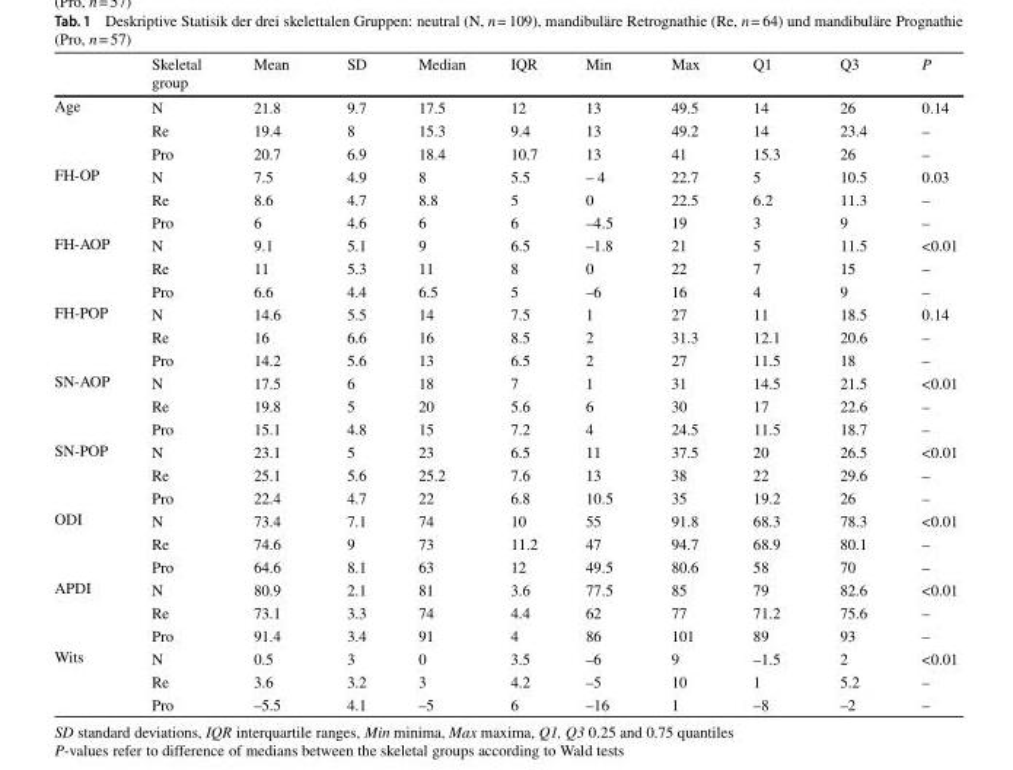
<table><thead><tr><td></td><td>Skeletal group</td><td>Mean</td><td>SD</td><td>Median</td><td>IQR</td><td>Min</td><td>Max</td><td>Q1</td><td>Q3</td><td>P</td></tr></thead><tbody><tr><td rowspan="3">Age</td><td>N</td><td>21.8</td><td>9.7</td><td>17.5</td><td>12</td><td>13</td><td>49.5</td><td>14</td><td>26</td><td>0.14</td></tr><tr><td>Re</td><td>19.4</td><td>8</td><td>15.3</td><td>9.4</td><td>13</td><td>49.2</td><td>14</td><td>23.4</td><td>–</td></tr><tr><td>Pro</td><td>20.7</td><td>6.9</td><td>18.4</td><td>10.7</td><td>13</td><td>41</td><td>15.3</td><td>26</td><td>–</td></tr><tr><td rowspan="3">FH-OP</td><td>N</td><td>7.5</td><td>4.9</td><td>8</td><td>5.5</td><td>– 4</td><td>22.7</td><td>5</td><td>10.5</td><td>0.03</td></tr><tr><td>Re</td><td>8.6</td><td>4.7</td><td>8.8</td><td>5</td><td>0</td><td>22.5</td><td>6.2</td><td>11.3</td><td>–</td></tr><tr><td>Pro</td><td>6</td><td>4.6</td><td>6</td><td>6</td><td>–4.5</td><td>19</td><td>3</td><td>9</td><td>–</td></tr><tr><td rowspan="3">FH-AOP</td><td>N</td><td>9.1</td><td>5.1</td><td>9</td><td>6.5</td><td>–1.8</td><td>21</td><td>5</td><td>11.5</td><td>&lt;0.01</td></tr><tr><td>Re</td><td>11</td><td>5.3</td><td>11</td><td>8</td><td>0</td><td>22</td><td>7</td><td>15</td><td>–</td></tr><tr><td>Pro</td><td>6.6</td><td>4.4</td><td>6.5</td><td>5</td><td>–6</td><td>16</td><td>4</td><td>9</td><td>–</td></tr><tr><td rowspan="3">FH-POP</td><td>N</td><td>14.6</td><td>5.5</td><td>14</td><td>7.5</td><td>1</td><td>27</td><td>11</td><td>18.5</td><td>0.14</td></tr><tr><td>Re</td><td>16</td><td>6.6</td><td>16</td><td>8.5</td><td>2</td><td>31.3</td><td>12.1</td><td>20.6</td><td>–</td></tr><tr><td>Pro</td><td>14.2</td><td>5.6</td><td>13</td><td>6.5</td><td>2</td><td>27</td><td>11.5</td><td>18</td><td>–</td></tr><tr><td rowspan="3">SN-AOP</td><td>N</td><td>17.5</td><td>6</td><td>18</td><td>7</td><td>1</td><td>31</td><td>14.5</td><td>21.5</td><td>&lt;0.01</td></tr><tr><td>Re</td><td>19.8</td><td>5</td><td>20</td><td>5.6</td><td>6</td><td>30</td><td>17</td><td>22.6</td><td>–</td></tr><tr><td>Pro</td><td>15.1</td><td>4.8</td><td>15</td><td>7.2</td><td>4</td><td>24.5</td><td>11.5</td><td>18.7</td><td>–</td></tr><tr><td rowspan="3">SN-POP</td><td>N</td><td>23.1</td><td>5</td><td>23</td><td>6.5</td><td>11</td><td>37.5</td><td>20</td><td>26.5</td><td>&lt;0.01</td></tr><tr><td>Re</td><td>25.1</td><td>5.6</td><td>25.2</td><td>7.6</td><td>13</td><td>38</td><td>22</td><td>29.6</td><td>–</td></tr><tr><td>Pro</td><td>22.4</td><td>4.7</td><td>22</td><td>6.8</td><td>10.5</td><td>35</td><td>19.2</td><td>26</td><td>–</td></tr><tr><td rowspan="3">ODI</td><td>N</td><td>73.4</td><td>7.1</td><td>74</td><td>10</td><td>55</td><td>91.8</td><td>68.3</td><td>78.3</td><td>&lt;0.01</td></tr><tr><td>Re</td><td>74.6</td><td>9</td><td>73</td><td>11.2</td><td>47</td><td>94.7</td><td>68.9</td><td>80.1</td><td>–</td></tr><tr><td>Pro</td><td>64.6</td><td>8.1</td><td>63</td><td>12</td><td>49.5</td><td>80.6</td><td>58</td><td>70</td><td>–</td></tr><tr><td rowspan="3">APDI</td><td>N</td><td>80.9</td><td>2.1</td><td>81</td><td>3.6</td><td>77.5</td><td>85</td><td>79</td><td>82.6</td><td>&lt;0.01</td></tr><tr><td>Re</td><td>73.1</td><td>3.3</td><td>74</td><td>4.4</td><td>62</td><td>77</td><td>71.2</td><td>75.6</td><td>–</td></tr><tr><td>Pro</td><td>91.4</td><td>3.4</td><td>91</td><td>4</td><td>86</td><td>101</td><td>89</td><td>93</td><td>–</td></tr><tr><td rowspan="3">Wits</td><td>N</td><td>0.5</td><td>3</td><td>0</td><td>3.5</td><td>–6</td><td>9</td><td>–1.5</td><td>2</td><td>&lt;0.01</td></tr><tr><td>Re</td><td>3.6</td><td>3.2</td><td>3</td><td>4.2</td><td>–5</td><td>10</td><td>1</td><td>5.2</td><td>–</td></tr><tr><td>Pro</td><td>–5.5</td><td>4.1</td><td>–5</td><td>6</td><td>–16</td><td>1</td><td>–8</td><td>–2</td><td>–</td></tr></tbody></table>